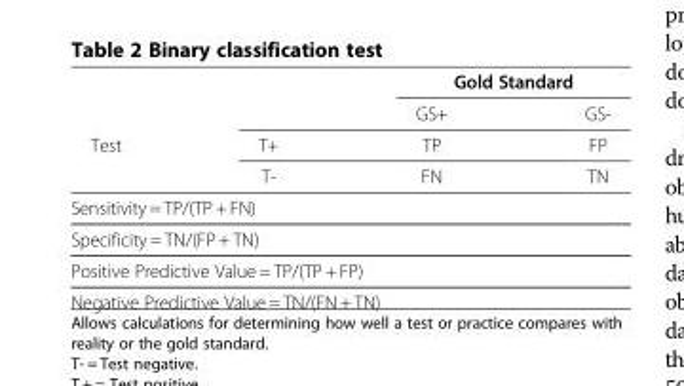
<table><thead><tr><td rowspan="2"></td><td rowspan="2"></td><td colspan="2">Gold Standard</td></tr><tr><td>GS+</td><td>GS-</td></tr></thead><tbody><tr><td rowspan="2">Test</td><td>T+</td><td>TP</td><td>FP</td></tr><tr><td>T-</td><td>FN</td><td>TN</td></tr><tr><td colspan="4">Sensitivity = TP/(TP + FN)</td></tr><tr><td colspan="4">Specificity = TN/(FP + TN)</td></tr><tr><td colspan="4">Positive Predictive Value = TP/(TP + FP)</td></tr><tr><td colspan="4">Negative Predictive Value = TN/(FN + TN)</td></tr></tbody></table>